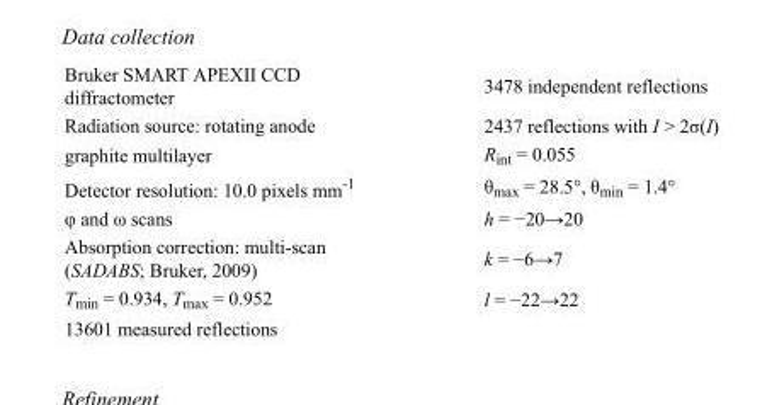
<table><tbody><tr><td>Bruker SMART APEXII CCD diffractometer</td><td>3478 independent reflections</td></tr><tr><td>Radiation source: rotating anode</td><td>2437 reflections with I &gt; 2σ(I)</td></tr><tr><td>graphite multilayer</td><td>R<sub>int</sub> = 0.055</td></tr><tr><td>Detector resolution: 10.0 pixels mm<sup>-1</sup></td><td>θ<sub>max</sub> = 28.5°, θ<sub>min</sub> = 1.4°</td></tr><tr><td>φ and ω scans</td><td>h = −20→20</td></tr><tr><td>Absorption correction: multi-scan (SADABS; Bruker, 2009)</td><td>k = −6→7</td></tr><tr><td>T<sub>min</sub> = 0.934, T<sub>max</sub> = 0.952</td><td>l = −22→22</td></tr><tr><td>13601 measured reflections</td><td></td></tr></tbody></table>